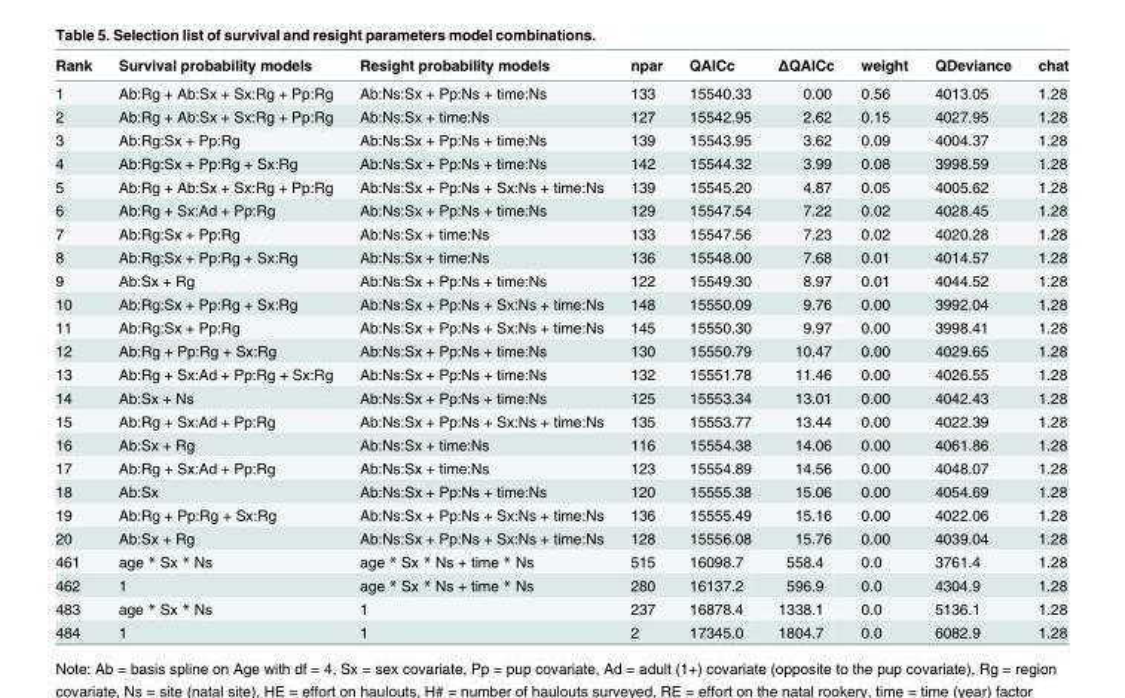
<table><thead><tr><td>Rank</td><td>Survival probability models</td><td>Resight probability models</td><td>npar</td><td>QAICc</td><td>ΔQAICc</td><td>weight</td><td>QDeviance</td><td>chat</td></tr></thead><tbody><tr><td>1</td><td>Ab:Rg + Ab:Sx + Sx:Rg + Pp:Rg</td><td>Ab:Ns:Sx + Pp:Ns + time:Ns</td><td>133</td><td>15540.33</td><td>0.00</td><td>0.56</td><td>4013.05</td><td>1.28</td></tr><tr><td>2</td><td>Ab:Rg + Ab:Sx + Sx:Rg + Pp:Rg</td><td>Ab:Ns:Sx + time:Ns</td><td>127</td><td>15542.95</td><td>2.62</td><td>0.15</td><td>4027.95</td><td>1.28</td></tr><tr><td>3</td><td>Ab:Rg:Sx + Pp:Rg</td><td>Ab:Ns:Sx + Pp:Ns + time:Ns</td><td>139</td><td>15543.95</td><td>3.62</td><td>0.09</td><td>4004.37</td><td>1.28</td></tr><tr><td>4</td><td>Ab:Rg:Sx + Pp:Rg + Sx:Rg</td><td>Ab:Ns:Sx + Pp:Ns + time:Ns</td><td>142</td><td>15544.32</td><td>3.99</td><td>0.08</td><td>3998.59</td><td>1.28</td></tr><tr><td>5</td><td>Ab:Rg + Ab:Sx + Sx:Rg + Pp:Rg</td><td>Ab:Ns:Sx + Pp:Ns + Sx:Ns + time:Ns</td><td>139</td><td>15545.20</td><td>4.87</td><td>0.05</td><td>4005.62</td><td>1.28</td></tr><tr><td>6</td><td>Ab:Rg + Sx:Ad + Pp:Rg</td><td>Ab:Ns:Sx + Pp:Ns + time:Ns</td><td>129</td><td>15547.54</td><td>7.22</td><td>0.02</td><td>4028.45</td><td>1.28</td></tr><tr><td>7</td><td>Ab:Rg:Sx + Pp:Rg</td><td>Ab:Ns:Sx + time:Ns</td><td>133</td><td>15547.56</td><td>7.23</td><td>0.02</td><td>4020.28</td><td>1.28</td></tr><tr><td>8</td><td>Ab:Rg:Sx + Pp:Rg + Sx:Rg</td><td>Ab:Ns:Sx + time:Ns</td><td>136</td><td>15548.00</td><td>7.68</td><td>0.01</td><td>4014.57</td><td>1.28</td></tr><tr><td>9</td><td>Ab:Sx + Rg</td><td>Ab:Ns:Sx + Pp:Ns + time:Ns</td><td>122</td><td>15549.30</td><td>8.97</td><td>0.01</td><td>4044.52</td><td>1.28</td></tr><tr><td>10</td><td>Ab:Rg:Sx + Pp:Rg + Sx:Rg</td><td>Ab:Ns:Sx + Pp:Ns + Sx:Ns + time:Ns</td><td>148</td><td>15550.09</td><td>9.76</td><td>0.00</td><td>3992.04</td><td>1.28</td></tr><tr><td>11</td><td>Ab:Rg:Sx + Pp:Rg</td><td>Ab:Ns:Sx + Pp:Ns + Sx:Ns + time:Ns</td><td>145</td><td>15550.30</td><td>9.97</td><td>0.00</td><td>3998.41</td><td>1.28</td></tr><tr><td>12</td><td>Ab:Rg + Pp:Rg + Sx:Rg</td><td>Ab:Ns:Sx + Pp:Ns + time:Ns</td><td>130</td><td>15550.79</td><td>10.47</td><td>0.00</td><td>4029.65</td><td>1.28</td></tr><tr><td>13</td><td>Ab:Rg + Sx:Ad + Pp:Rg + Sx:Rg</td><td>Ab:Ns:Sx + Pp:Ns + time:Ns</td><td>132</td><td>15551.78</td><td>11.46</td><td>0.00</td><td>4026.55</td><td>1.28</td></tr><tr><td>14</td><td>Ab:Sx + Ns</td><td>Ab:Ns:Sx + Pp:Ns + time:Ns</td><td>125</td><td>15553.34</td><td>13.01</td><td>0.00</td><td>4042.43</td><td>1.28</td></tr><tr><td>15</td><td>Ab:Rg + Sx:Ad + Pp:Rg</td><td>Ab:Ns:Sx + Pp:Ns + Sx:Ns + time:Ns</td><td>135</td><td>15553.77</td><td>13.44</td><td>0.00</td><td>4022.39</td><td>1.28</td></tr><tr><td>16</td><td>Ab:Sx + Rg</td><td>Ab:Ns:Sx + time:Ns</td><td>116</td><td>15554.38</td><td>14.06</td><td>0.00</td><td>4061.86</td><td>1.28</td></tr><tr><td>17</td><td>Ab:Rg + Sx:Ad + Pp:Rg</td><td>Ab:Ns:Sx + time:Ns</td><td>123</td><td>15554.89</td><td>14.56</td><td>0.00</td><td>4048.07</td><td>1.28</td></tr><tr><td>18</td><td>Ab:Sx</td><td>Ab:Ns:Sx + Pp:Ns + time:Ns</td><td>120</td><td>15555.38</td><td>15.06</td><td>0.00</td><td>4054.69</td><td>1.28</td></tr><tr><td>19</td><td>Ab:Rg + Pp:Rg + Sx:Rg</td><td>Ab:Ns:Sx + Pp:Ns + Sx:Ns + time:Ns</td><td>136</td><td>15555.49</td><td>15.16</td><td>0.00</td><td>4022.06</td><td>1.28</td></tr><tr><td>20</td><td>Ab:Sx + Rg</td><td>Ab:Ns:Sx + Pp:Ns + Sx:Ns + time:Ns</td><td>128</td><td>15556.08</td><td>15.76</td><td>0.00</td><td>4039.04</td><td>1.28</td></tr><tr><td>461</td><td>age * Sx * Ns</td><td>age * Sx * Ns + time * Ns</td><td>515</td><td>16098.7</td><td>558.4</td><td>0.0</td><td>3761.4</td><td>1.28</td></tr><tr><td>462</td><td>1</td><td>age * Sx * Ns + time * Ns</td><td>280</td><td>16137.2</td><td>596.9</td><td>0.0</td><td>4304.9</td><td>1.28</td></tr><tr><td>483</td><td>age * Sx * Ns</td><td>1</td><td>237</td><td>16878.4</td><td>1338.1</td><td>0.0</td><td>5136.1</td><td>1.28</td></tr><tr><td>484</td><td>1</td><td>1</td><td>2</td><td>17345.0</td><td>1804.7</td><td>0.0</td><td>6082.9</td><td>1.28</td></tr></tbody></table>